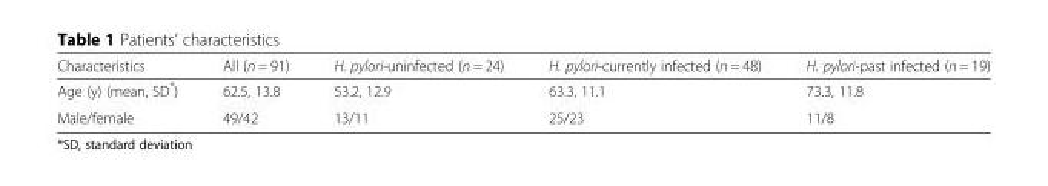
<table><thead><tr><td>Characteristics</td><td>All (n = 91)</td><td>H. pylori-uninfected (n = 24)</td><td>H. pylori-currently infected (n = 48)</td><td>H. pylori-past infected (n = 19)</td></tr></thead><tbody><tr><td>Age (y) (mean, SD*)</td><td>62.5, 13.8</td><td>53.2, 12.9</td><td>63.3, 11.1</td><td>73.3, 11.8</td></tr><tr><td>Male/female</td><td>49/42</td><td>13/11</td><td>25/23</td><td>11/8</td></tr></tbody></table>